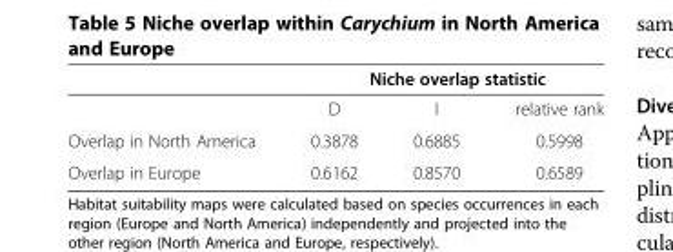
<table><thead><tr><td rowspan="2"></td><td colspan="3">Niche overlap statistic</td></tr><tr><td>D</td><td>I</td><td>relative rank</td></tr></thead><tbody><tr><td>Overlap in North America</td><td>0.3878</td><td>0.6885</td><td>0.5998</td></tr><tr><td>Overlap in Europe</td><td>0.6162</td><td>0.8570</td><td>0.6589</td></tr></tbody></table>